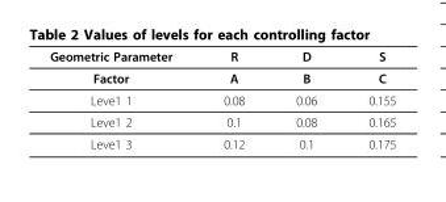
<table><thead><tr><td>Geometric Parameter</td><td>R</td><td>D</td><td>S</td></tr></thead><tbody><tr><td>Factor</td><td>A</td><td>B</td><td>C</td></tr><tr><td>Leve1 1</td><td>0.08</td><td>0.06</td><td>0.155</td></tr><tr><td>Leve1 2</td><td>0.1</td><td>0.08</td><td>0.165</td></tr><tr><td>Leve1 3</td><td>0.12</td><td>0.1</td><td>0.175</td></tr></tbody></table>